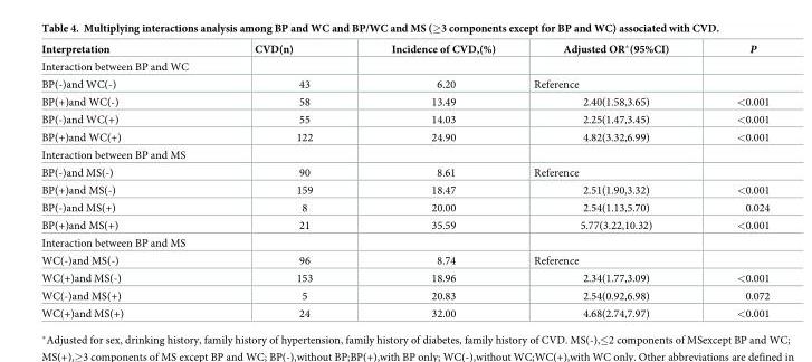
<table><thead><tr><td>Interpretation</td><td>CVD(n)</td><td>Incidence of CVD,(%)</td><td>Adjusted OR*(95%CI)</td><td>P</td></tr></thead><tbody><tr><td colspan="5">Interaction between BP and WC</td></tr><tr><td>BP(-)and WC(-)</td><td>43</td><td>6.20</td><td>Reference</td><td></td></tr><tr><td>BP(+)and WC(-)</td><td>58</td><td>13.49</td><td>2.40(1.58,3.65)</td><td>&lt;0.001</td></tr><tr><td>BP(-)and WC(+)</td><td>55</td><td>14.03</td><td>2.25(1.47,3.45)</td><td>&lt;0.001</td></tr><tr><td>BP(+)and WC(+)</td><td>122</td><td>24.90</td><td>4.82(3.32,6.99)</td><td>&lt;0.001</td></tr><tr><td colspan="5">Interaction between BP and MS</td></tr><tr><td>BP(-)and MS(-)</td><td>90</td><td>8.61</td><td>Reference</td><td></td></tr><tr><td>BP(+)and MS(-)</td><td>159</td><td>18.47</td><td>2.51(1.90,3.32)</td><td>&lt;0.001</td></tr><tr><td>BP(-)and MS(+)</td><td>8</td><td>20.00</td><td>2.54(1.13,5.70)</td><td>0.024</td></tr><tr><td>BP(+)and MS(+)</td><td>21</td><td>35.59</td><td>5.77(3.22,10.32)</td><td>&lt;0.001</td></tr><tr><td colspan="5">Interaction between BP and MS</td></tr><tr><td>WC(-)and MS(-)</td><td>96</td><td>8.74</td><td>Reference</td><td></td></tr><tr><td>WC(+)and MS(-)</td><td>153</td><td>18.96</td><td>2.34(1.77,3.09)</td><td>&lt;0.001</td></tr><tr><td>WC(-)and MS(+)</td><td>5</td><td>20.83</td><td>2.54(0.92,6.98)</td><td>0.072</td></tr><tr><td>WC(+)and MS(+)</td><td>24</td><td>32.00</td><td>4.68(2.74,7.97)</td><td>&lt;0.001</td></tr></tbody></table>